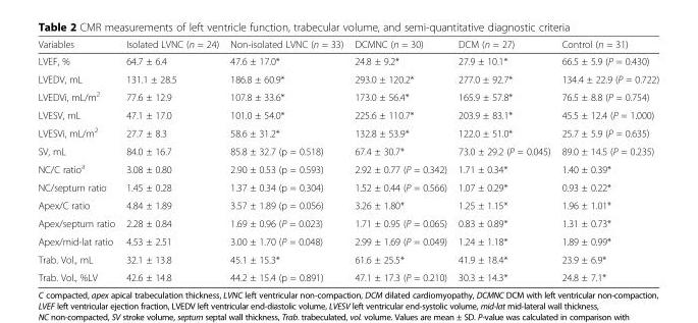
<table><thead><tr><td>Variables</td><td>Isolated LVNC (n = 24)</td><td>Non-isolated LVNC (n = 33)</td><td>DCMNC (n = 30)</td><td>DCM (n = 27)</td><td>Control (n = 31)</td></tr></thead><tbody><tr><td>LVEF, %</td><td>64.7 ± 6.4</td><td>47.6 ± 17.0*</td><td>24.8 ± 9.2*</td><td>27.9 ± 10.1*</td><td>66.5 ± 5.9 (P = 0.430)</td></tr><tr><td>LVEDV, mL</td><td>131.1 ± 28.5</td><td>186.8 ± 60.9*</td><td>293.0 ± 120.2*</td><td>277.0 ± 92.7*</td><td>134.4 ± 22.9 (P = 0.722)</td></tr><tr><td>LVEDVi, mL/m<sup>2</sup></td><td>77.6 ± 12.9</td><td>107.8 ± 33.6*</td><td>173.0 ± 56.4*</td><td>165.9 ± 57.8*</td><td>76.5 ± 8.8 (P = 0.754)</td></tr><tr><td>LVESV, mL</td><td>47.1 ± 17.0</td><td>101.0 ± 54.0*</td><td>225.6 ± 110.7*</td><td>203.9 ± 83.1*</td><td>45.5 ± 12.4 (P = 1.000)</td></tr><tr><td>LVESVi, mL/m<sup>2</sup></td><td>27.7 ± 8.3</td><td>58.6 ± 31.2*</td><td>132.8 ± 53.9*</td><td>122.0 ± 51.0*</td><td>25.7 ± 5.9 (P = 0.635)</td></tr><tr><td>SV, mL</td><td>84.0 ± 16.7</td><td>85.8 ± 32.7 (p = 0.518)</td><td>67.4 ± 30.7*</td><td>73.0 ± 29.2 (P = 0.045)</td><td>89.0 ± 14.5 (P = 0.235)</td></tr><tr><td>NC/C ratio<sup>a</sup></td><td>3.08 ± 0.80</td><td>2.90 ± 0.53 (p = 0.593)</td><td>2.92 ± 0.77 (P = 0.342)</td><td>1.71 ± 0.34*</td><td>1.40 ± 0.39*</td></tr><tr><td>NC/septum ratio</td><td>1.45 ± 0.28</td><td>1.37 ± 0.34 (p = 0.304)</td><td>1.52 ± 0.44 (P = 0.566)</td><td>1.07 ± 0.29*</td><td>0.93 ± 0.22*</td></tr><tr><td>Apex/C ratio</td><td>4.84 ± 1.89</td><td>3.57 ± 1.89 (p = 0.056)</td><td>3.26 ± 1.80*</td><td>1.25 ± 1.15*</td><td>1.96 ± 1.01*</td></tr><tr><td>Apex/septum ratio</td><td>2.28 ± 0.84</td><td>1.69 ± 0.96 (P = 0.023)</td><td>1.71 ± 0.95 (P = 0.065)</td><td>0.83 ± 0.89*</td><td>1.31 ± 0.73*</td></tr><tr><td>Apex/mid-lat ratio</td><td>4.53 ± 2.51</td><td>3.00 ± 1.70 (P = 0.048)</td><td>2.99 ± 1.69 (P = 0.049)</td><td>1.24 ± 1.18*</td><td>1.89 ± 0.99*</td></tr><tr><td>Trab. Vol., mL</td><td>32.1 ± 13.8</td><td>45.1 ± 15.3*</td><td>61.6 ± 25.5*</td><td>41.9 ± 18.4*</td><td>23.9 ± 6.9*</td></tr><tr><td>Trab. Vol., %LV</td><td>42.6 ± 14.8</td><td>44.2 ± 15.4 (p = 0.891)</td><td>47.1 ± 17.3 (P = 0.210)</td><td>30.3 ± 14.3*</td><td>24.8 ± 7.1*</td></tr></tbody></table>